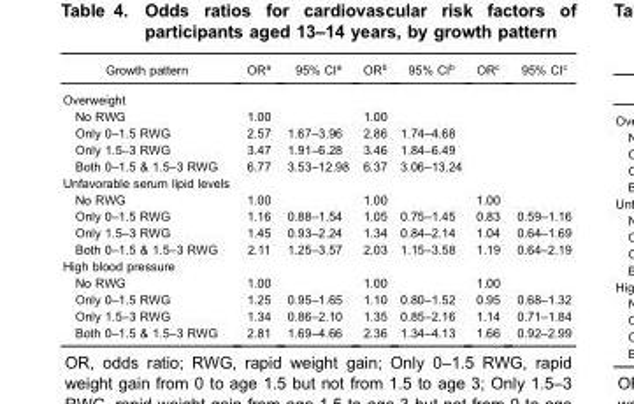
<table><thead><tr><td>Growth pattern</td><td>OR<sup>a</sup></td><td>95% CI<sup>a</sup></td><td>OR<sup>b</sup></td><td>95% CI<sup>b</sup></td><td>OR<sup>c</sup></td><td>95% CI<sup>c</sup></td></tr></thead><tbody><tr><td colspan="7">Overweight</td></tr><tr><td>No RWG</td><td>1.00</td><td></td><td>1.00</td><td></td><td></td><td></td></tr><tr><td>Only 0–1.5 RWG</td><td>2.57</td><td>1.67–3.96</td><td>2.86</td><td>1.74–4.68</td><td></td><td></td></tr><tr><td>Only 1.5–3 RWG</td><td>3.47</td><td>1.91–6.28</td><td>3.46</td><td>1.84–6.49</td><td></td><td></td></tr><tr><td>Both 0–1.5 &amp; 1.5–3 RWG</td><td>6.77</td><td>3.53–12.98</td><td>6.37</td><td>3.06–13.24</td><td></td><td></td></tr><tr><td colspan="7">Unfavorable serum lipid levels</td></tr><tr><td>No RWG</td><td>1.00</td><td></td><td>1.00</td><td></td><td>1.00</td><td></td></tr><tr><td>Only 0–1.5 RWG</td><td>1.16</td><td>0.88–1.54</td><td>1.05</td><td>0.75–1.45</td><td>0.83</td><td>0.59–1.16</td></tr><tr><td>Only 1.5–3 RWG</td><td>1.45</td><td>0.93–2.24</td><td>1.34</td><td>0.84–2.14</td><td>1.04</td><td>0.64–1.69</td></tr><tr><td>Both 0–1.5 &amp; 1.5–3 RWG</td><td>2.11</td><td>1.25–3.57</td><td>2.03</td><td>1.15–3.58</td><td>1.19</td><td>0.64–2.19</td></tr><tr><td colspan="7">High blood pressure</td></tr><tr><td>No RWG</td><td>1.00</td><td></td><td>1.00</td><td></td><td>1.00</td><td></td></tr><tr><td>Only 0–1.5 RWG</td><td>1.25</td><td>0.95–1.65</td><td>1.10</td><td>0.80–1.52</td><td>0.95</td><td>0.68–1.32</td></tr><tr><td>Only 1.5–3 RWG</td><td>1.34</td><td>0.86–2.10</td><td>1.35</td><td>0.85–2.16</td><td>1.14</td><td>0.71–1.84</td></tr><tr><td>Both 0–1.5 &amp; 1.5–3 RWG</td><td>2.81</td><td>1.69–4.66</td><td>2.36</td><td>1.34–4.13</td><td>1.66</td><td>0.92–2.99</td></tr></tbody></table>